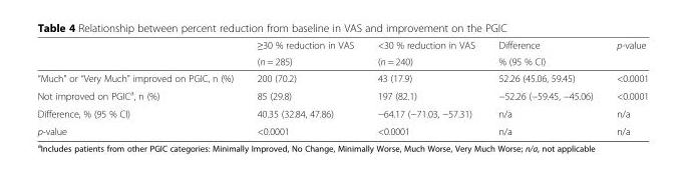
<table><thead><tr><td rowspan="2"></td><td rowspan="2">≥30 % reduction in VAS (n = 285)</td><td rowspan="2">&lt;30 % reduction in VAS (n = 240)</td><td rowspan="2">Difference % (95 % CI)</td><td rowspan="2">p-value</td></tr><tr></tr></thead><tbody><tr><td>“Much” or “Very Much” improved on PGIC, n (%)</td><td>200 (70.2)</td><td>43 (17.9)</td><td>52.26 (45.06, 59.45)</td><td>&lt;0.0001</td></tr><tr><td>Not improved on PGIC<sup>a</sup>, n (%)</td><td>85 (29.8)</td><td>197 (82.1)</td><td>−52.26 (−59.45, −45.06)</td><td>&lt;0.0001</td></tr><tr><td>Difference, % (95 % CI)</td><td>40.35 (32.84, 47.86)</td><td>−64.17 (−71.03, −57.31)</td><td>n/a</td><td>n/a</td></tr><tr><td>p-value</td><td>&lt;0.0001</td><td>&lt;0.0001</td><td>n/a</td><td>n/a</td></tr></tbody></table>